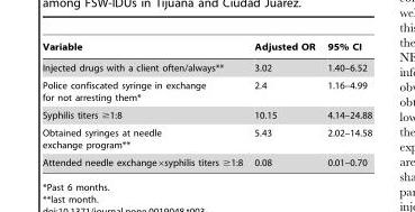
<table><thead><tr><td>Variable</td><td>Adjusted OR</td><td>95% CI</td></tr></thead><tbody><tr><td>Injected drugs with a client often/always**</td><td>3.02</td><td>1.40–6.52</td></tr><tr><td>Police confiscated syringe in exchange for not arresting them*</td><td>2.4</td><td>1.16–4.99</td></tr><tr><td>Syphilis titers ≥1:8</td><td>10.15</td><td>4.14–24.88</td></tr><tr><td>Obtained syringes at needle exchange program**</td><td>5.43</td><td>2.02–14.58</td></tr><tr><td>Attended needle exchange×syphilis titers ≥1:8</td><td>0.08</td><td>0.01–0.70</td></tr></tbody></table>